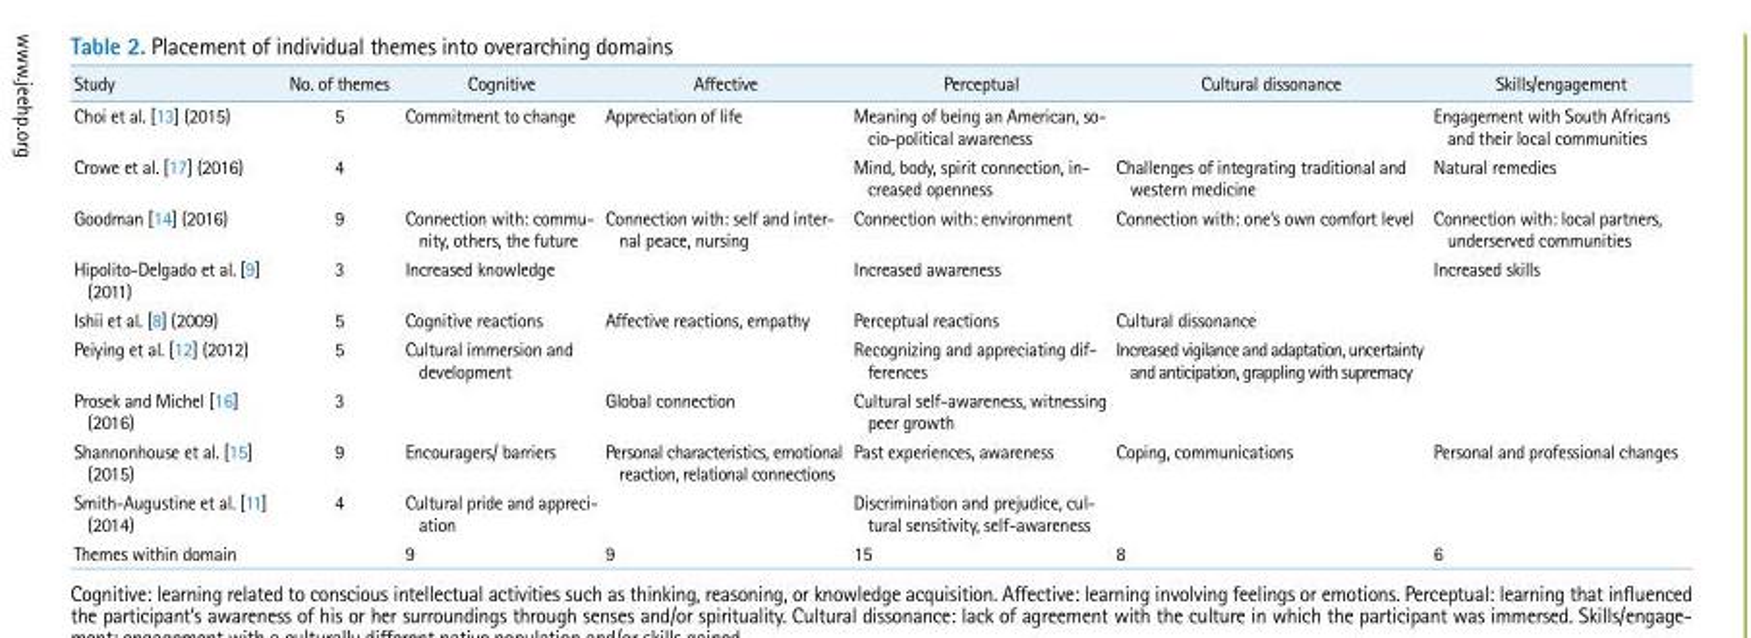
<table><thead><tr><td>Study</td><td>No. of themes</td><td>Cognitive</td><td>Affective</td><td>Perceptual</td><td>Cultural dissonance</td><td>Skills/engagement</td></tr></thead><tbody><tr><td>Choi et al. [13] (2015)</td><td>5</td><td>Commitment to change</td><td>Appreciation of life</td><td>Meaning of being an American, so- cio-political awareness</td><td></td><td>Engagement with South Africans and their local communities</td></tr><tr><td>Crowe et al. [17] (2016)</td><td>4</td><td></td><td></td><td>Mind, body, spirit connection, in- creased openness</td><td>Challenges of integrating traditional and western medicine</td><td>Natural remedies</td></tr><tr><td>Goodman [14] (2016)</td><td>9</td><td>Connection with: commu- nity, others, the future</td><td>Connection with: self and inter- nal peace, nursing</td><td>Connection with: environment</td><td>Connection with: one’s own comfort level</td><td>Connection with: local partners, underserved communities</td></tr><tr><td>Hipolito-Delgado et al. [9] (2011)</td><td>3</td><td>Increased knowledge</td><td></td><td>Increased awareness</td><td></td><td>Increased skills</td></tr><tr><td>Ishii et al. [8] (2009)</td><td>5</td><td>Cognitive reactions</td><td>Affective reactions, empathy</td><td>Perceptual reactions</td><td>Cultural dissonance</td><td></td></tr><tr><td>Peiying et al. [12] (2012)</td><td>5</td><td>Cultural immersion and development</td><td></td><td>Recognizing and appreciating dif- ferences</td><td>Increased vigilance and adaptation, uncertainty and anticipation, grappling with supremacy</td><td></td></tr><tr><td>Prosek and Michel [16] (2016)</td><td>3</td><td></td><td>Global connection</td><td>Cultural self-awareness, witnessing peer growth</td><td></td><td></td></tr><tr><td>Shannonhouse et al. [15] (2015)</td><td>9</td><td>Encouragers/ barriers</td><td>Personal characteristics, emotional reaction, relational connections</td><td>Past experiences, awareness</td><td>Coping, communications</td><td>Personal and professional changes</td></tr><tr><td>Smith-Augustine et al. [11] (2014)</td><td>4</td><td>Cultural pride and appreci- ation</td><td></td><td>Discrimination and prejudice, cul- tural sensitivity, self-awareness</td><td></td><td></td></tr><tr><td>Themes within domain</td><td></td><td>9</td><td>9</td><td>15</td><td>8</td><td>6</td></tr></tbody></table>